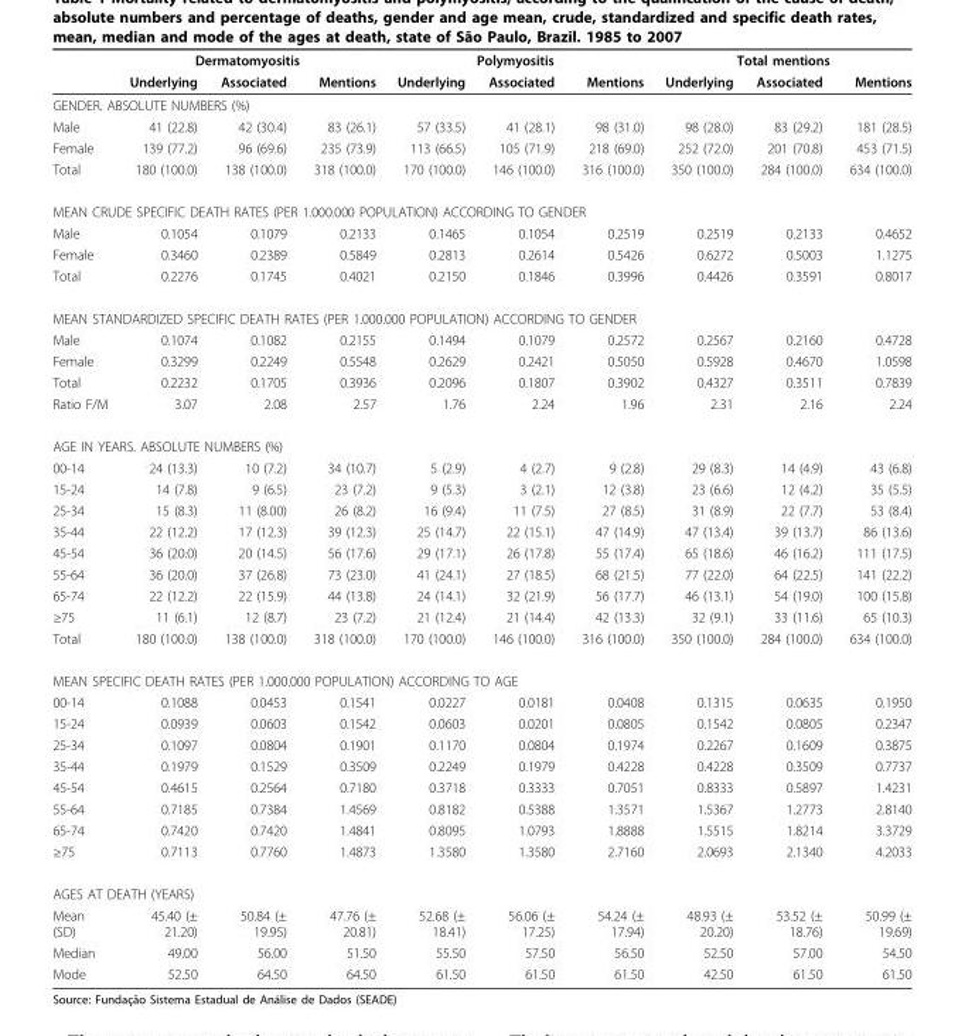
<table><thead><tr><td rowspan="2"></td><td colspan="3">Dermatomyositis</td><td colspan="3">Polymyositis</td><td colspan="3">Total mentions</td></tr><tr><td>Underlying</td><td>Associated</td><td>Mentions</td><td>Underlying</td><td>Associated</td><td>Mentions</td><td>Underlying</td><td>Associated</td><td>Mentions</td></tr></thead><tbody><tr><td colspan="10">GENDER. ABSOLUTE NUMBERS (%)</td></tr><tr><td>Male</td><td>41 (22.8)</td><td>42 (30.4)</td><td>83 (26.1)</td><td>57 (33.5)</td><td>41 (28.1)</td><td>98 (31.0)</td><td>98 (28.0)</td><td>83 (29.2)</td><td>181 (28.5)</td></tr><tr><td>Female</td><td>139 (77.2)</td><td>96 (69.6)</td><td>235 (73.9)</td><td>113 (66.5)</td><td>105 (71.9)</td><td>218 (69.0)</td><td>252 (72.0)</td><td>201 (70.8)</td><td>453 (71.5)</td></tr><tr><td>Total</td><td>180 (100.0)</td><td>138 (100.0)</td><td>318 (100.0)</td><td>170 (100.0)</td><td>146 (100.0)</td><td>316 (100.0)</td><td>350 (100.0)</td><td>284 (100.0)</td><td>634 (100.0)</td></tr><tr><td colspan="10">MEAN CRUDE SPECIFIC DEATH RATES (PER 1.000.000 POPULATION) ACCORDING TO GENDER</td></tr><tr><td>Male</td><td>0.1054</td><td>0.1079</td><td>0.2133</td><td>0.1465</td><td>0.1054</td><td>0.2519</td><td>0.2519</td><td>0.2133</td><td>0.4652</td></tr><tr><td>Female</td><td>0.3460</td><td>0.2389</td><td>0.5849</td><td>0.2813</td><td>0.2614</td><td>0.5426</td><td>0.6272</td><td>0.5003</td><td>1.1275</td></tr><tr><td>Total</td><td>0.2276</td><td>0.1745</td><td>0.4021</td><td>0.2150</td><td>0.1846</td><td>0.3996</td><td>0.4426</td><td>0.3591</td><td>0.8017</td></tr><tr><td colspan="10">MEAN STANDARDIZED SPECIFIC DEATH RATES (PER 1.000.000 POPULATION) ACCORDING TO GENDER</td></tr><tr><td>Male</td><td>0.1074</td><td>0.1082</td><td>0.2155</td><td>0.1494</td><td>0.1079</td><td>0.2572</td><td>0.2567</td><td>0.2160</td><td>0.4728</td></tr><tr><td>Female</td><td>0.3299</td><td>0.2249</td><td>0.5548</td><td>0.2629</td><td>0.2421</td><td>0.5050</td><td>0.5928</td><td>0.4670</td><td>1.0598</td></tr><tr><td>Total</td><td>0.2232</td><td>0.1705</td><td>0.3936</td><td>0.2096</td><td>0.1807</td><td>0.3902</td><td>0.4327</td><td>0.3511</td><td>0.7839</td></tr><tr><td>Ratio F/M</td><td>3.07</td><td>2.08</td><td>2.57</td><td>1.76</td><td>2.24</td><td>1.96</td><td>2.31</td><td>2.16</td><td>2.24</td></tr><tr><td colspan="10">AGE IN YEARS. ABSOLUTE NUMBERS (%)</td></tr><tr><td>00-14</td><td>24 (13.3)</td><td>10 (7.2)</td><td>34 (10.7)</td><td>5 (2.9)</td><td>4 (2.7)</td><td>9 (2.8)</td><td>29 (8.3)</td><td>14 (4.9)</td><td>43 (6.8)</td></tr><tr><td>15-24</td><td>14 (7.8)</td><td>9 (6.5)</td><td>23 (7.2)</td><td>9 (5.3)</td><td>3 (2.1)</td><td>12 (3.8)</td><td>23 (6.6)</td><td>12 (4.2)</td><td>35 (5.5)</td></tr><tr><td>25-34</td><td>15 (8.3)</td><td>11 (8.00)</td><td>26 (8.2)</td><td>16 (9.4)</td><td>11 (7.5)</td><td>27 (8.5)</td><td>31 (8.9)</td><td>22 (7.7)</td><td>53 (8.4)</td></tr><tr><td>35-44</td><td>22 (12.2)</td><td>17 (12.3)</td><td>39 (12.3)</td><td>25 (14.7)</td><td>22 (15.1)</td><td>47 (14.9)</td><td>47 (13.4)</td><td>39 (13.7)</td><td>86 (13.6)</td></tr><tr><td>45-54</td><td>36 (20.0)</td><td>20 (14.5)</td><td>56 (17.6)</td><td>29 (17.1)</td><td>26 (17.8)</td><td>55 (17.4)</td><td>65 (18.6)</td><td>46 (16.2)</td><td>111 (17.5)</td></tr><tr><td>55-64</td><td>36 (20.0)</td><td>37 (26.8)</td><td>73 (23.0)</td><td>41 (24.1)</td><td>27 (18.5)</td><td>68 (21.5)</td><td>77 (22.0)</td><td>64 (22.5)</td><td>141 (22.2)</td></tr><tr><td>65-74</td><td>22 (12.2)</td><td>22 (15.9)</td><td>44 (13.8)</td><td>24 (14.1)</td><td>32 (21.9)</td><td>56 (17.7)</td><td>46 (13.1)</td><td>54 (19.0)</td><td>100 (15.8)</td></tr><tr><td>≥75</td><td>11 (6.1)</td><td>12 (8.7)</td><td>23 (7.2)</td><td>21 (12.4)</td><td>21 (14.4)</td><td>42 (13.3)</td><td>32 (9.1)</td><td>33 (11.6)</td><td>65 (10.3)</td></tr><tr><td>Total</td><td>180 (100.0)</td><td>138 (100.0)</td><td>318 (100.0)</td><td>170 (100.0)</td><td>146 (100.0)</td><td>316 (100.0)</td><td>350 (100.0)</td><td>284 (100.0)</td><td>634 (100.0)</td></tr><tr><td colspan="10">MEAN SPECIFIC DEATH RATES (PER 1.000.000 POPULATION) ACCORDING TO AGE</td></tr><tr><td>00-14</td><td>0.1088</td><td>0.0453</td><td>0.1541</td><td>0.0227</td><td>0.0181</td><td>0.0408</td><td>0.1315</td><td>0.0635</td><td>0.1950</td></tr><tr><td>15-24</td><td>0.0939</td><td>0.0603</td><td>0.1542</td><td>0.0603</td><td>0.0201</td><td>0.0805</td><td>0.1542</td><td>0.0805</td><td>0.2347</td></tr><tr><td>25-34</td><td>0.1097</td><td>0.0804</td><td>0.1901</td><td>0.1170</td><td>0.0804</td><td>0.1974</td><td>0.2267</td><td>0.1609</td><td>0.3875</td></tr><tr><td>35-44</td><td>0.1979</td><td>0.1529</td><td>0.3509</td><td>0.2249</td><td>0.1979</td><td>0.4228</td><td>0.4228</td><td>0.3509</td><td>0.7737</td></tr><tr><td>45-54</td><td>0.4615</td><td>0.2564</td><td>0.7180</td><td>0.3718</td><td>0.3333</td><td>0.7051</td><td>0.8333</td><td>0.5897</td><td>1.4231</td></tr><tr><td>55-64</td><td>0.7185</td><td>0.7384</td><td>1.4569</td><td>0.8182</td><td>0.5388</td><td>1.3571</td><td>1.5367</td><td>1.2773</td><td>2.8140</td></tr><tr><td>65-74</td><td>0.7420</td><td>0.7420</td><td>1.4841</td><td>0.8095</td><td>1.0793</td><td>1.8888</td><td>1.5515</td><td>1.8214</td><td>3.3729</td></tr><tr><td>≥75</td><td>0.7113</td><td>0.7760</td><td>1.4873</td><td>1.3580</td><td>1.3580</td><td>2.7160</td><td>2.0693</td><td>2.1340</td><td>4.2033</td></tr><tr><td colspan="10">AGES AT DEATH (YEARS)</td></tr><tr><td>Mean (SD)</td><td>45.40 (± 21.20)</td><td>50.84 (± 19.95)</td><td>47.76 (± 20.81)</td><td>52.68 (± 18.41)</td><td>56.06 (± 17.25)</td><td>54.24 (± 17.94)</td><td>48.93 (± 20.20)</td><td>53.52 (± 18.76)</td><td>50.99 (± 19.69)</td></tr><tr><td>Median</td><td>49.00</td><td>56.00</td><td>51.50</td><td>55.50</td><td>57.50</td><td>56.50</td><td>52.50</td><td>57.00</td><td>54.50</td></tr><tr><td>Mode</td><td>52.50</td><td>64.50</td><td>64.50</td><td>61.50</td><td>61.50</td><td>61.50</td><td>42.50</td><td>61.50</td><td>61.50</td></tr></tbody></table>